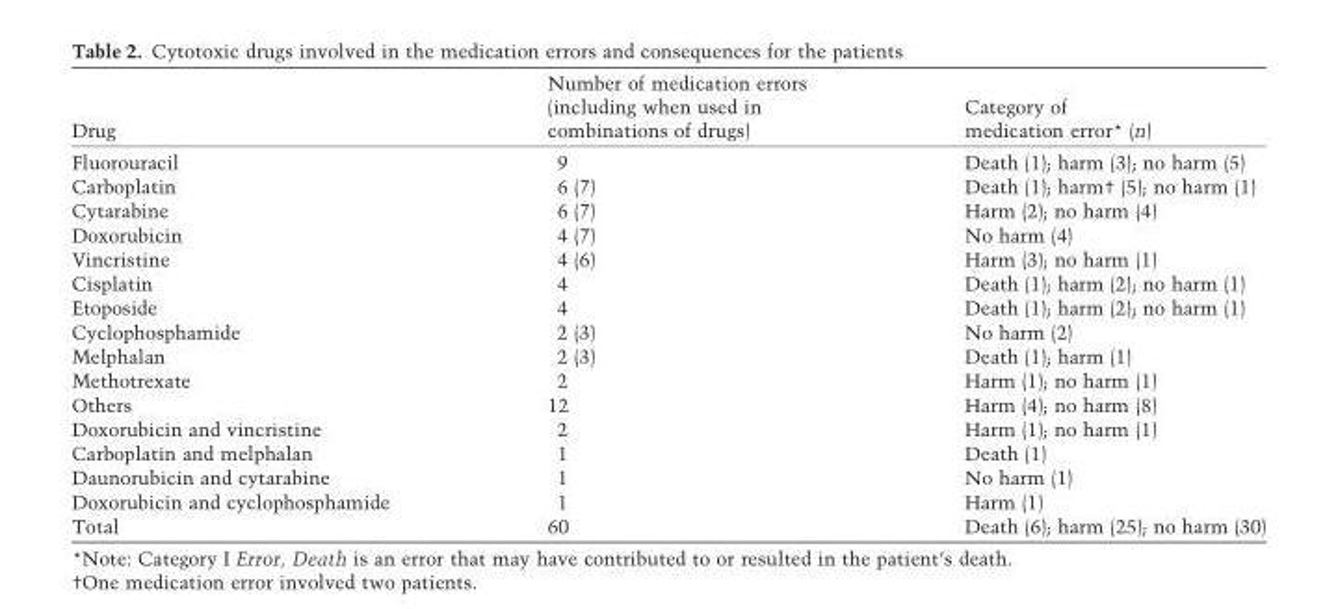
<table><thead><tr><td>Drug</td><td>Number of medication errors (including when used in combinations of drugs)</td><td>Category of medication error* (n)</td></tr></thead><tbody><tr><td>Fluorouracil</td><td>9</td><td>Death (1); harm (3); no harm (5)</td></tr><tr><td>Carboplatin</td><td>6 (7)</td><td>Death (1); harm† (5); no harm (1)</td></tr><tr><td>Cytarabine</td><td>6 (7)</td><td>Harm (2); no harm (4)</td></tr><tr><td>Doxorubicin</td><td>4 (7)</td><td>No harm (4)</td></tr><tr><td>Vincristine</td><td>4 (6)</td><td>Harm (3); no harm (1)</td></tr><tr><td>Cisplatin</td><td>4</td><td>Death (1); harm (2); no harm (1)</td></tr><tr><td>Etoposide</td><td>4</td><td>Death (1); harm (2); no harm (1)</td></tr><tr><td>Cyclophosphamide</td><td>2 (3)</td><td>No harm (2)</td></tr><tr><td>Melphalan</td><td>2 (3)</td><td>Death (1); harm (1)</td></tr><tr><td>Methotrexate</td><td>2</td><td>Harm (1); no harm (1)</td></tr><tr><td>Others</td><td>12</td><td>Harm (4); no harm (8)</td></tr><tr><td>Doxorubicin and vincristine</td><td>2</td><td>Harm (1); no harm (1)</td></tr><tr><td>Carboplatin and melphalan</td><td>1</td><td>Death (1)</td></tr><tr><td>Daunorubicin and cytarabine</td><td>1</td><td>No harm (1)</td></tr><tr><td>Doxorubicin and cyclophosphamide</td><td>1</td><td>Harm (1)</td></tr><tr><td>Total</td><td>60</td><td>Death (6); harm (25); no harm (30)</td></tr></tbody></table>